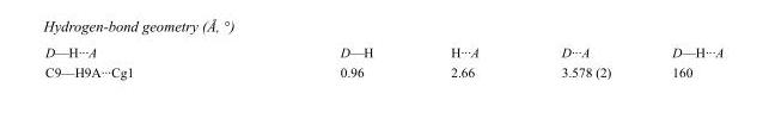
<table><tbody><tr><td>D—H···A</td><td>D—H</td><td>H···A</td><td>D···A</td><td>D—H···A</td></tr><tr><td>C9—H9A···Cg1</td><td>0.96</td><td>2.66</td><td>3.578 (2)</td><td>160</td></tr></tbody></table>